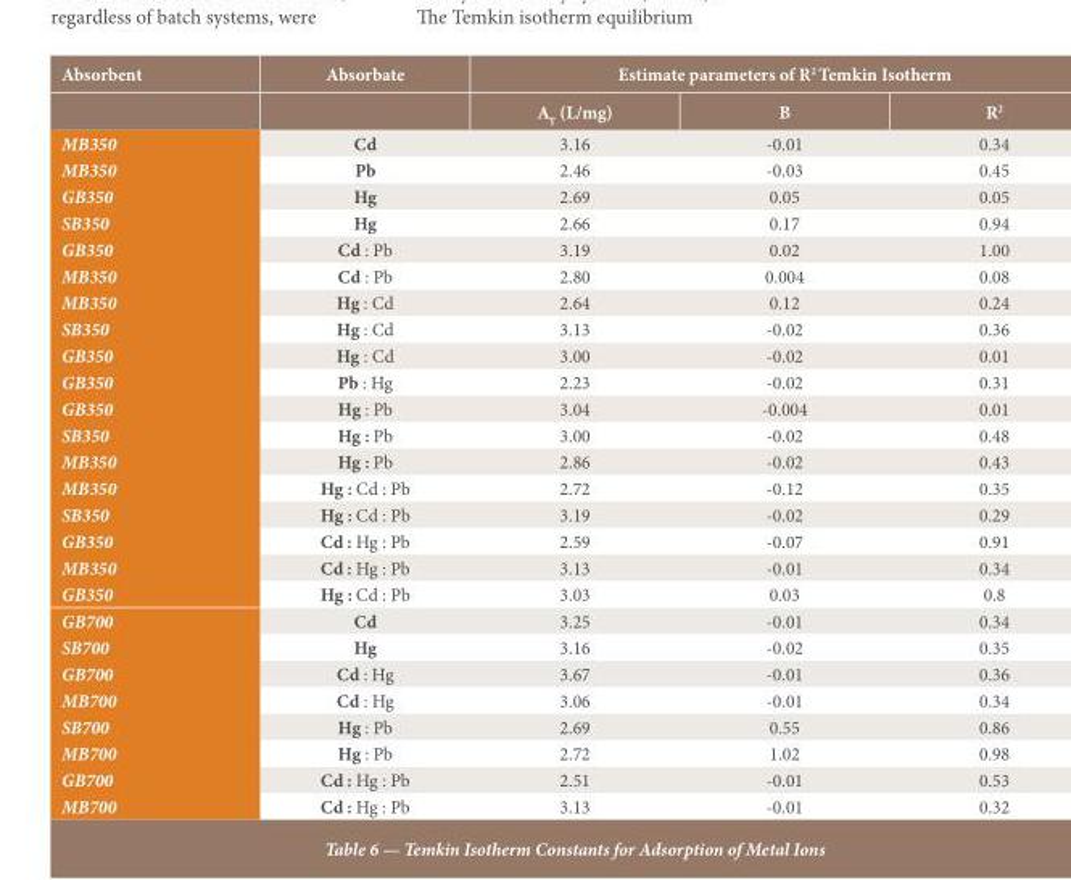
<table><thead><tr><td rowspan="2">Absorbent</td><td rowspan="2">Absorbate</td><td colspan="3">Estimate parameters of R<sup>2</sup> Temkin Isotherm</td></tr><tr><td>A<sub>T</sub> (L/mg)</td><td>B</td><td>R<sup>2</sup></td></tr></thead><tbody><tr><td>MB350</td><td>Cd</td><td>3.16</td><td>-0.01</td><td>0.34</td></tr><tr><td>MB350</td><td>Pb</td><td>2.46</td><td>-0.03</td><td>0.45</td></tr><tr><td>GB350</td><td>Hg</td><td>2.69</td><td>0.05</td><td>0.05</td></tr><tr><td>SB350</td><td>Hg</td><td>2.66</td><td>0.17</td><td>0.94</td></tr><tr><td>GB350</td><td>Cd : Pb</td><td>3.19</td><td>0.02</td><td>1.00</td></tr><tr><td>MB350</td><td>Cd : Pb</td><td>2.80</td><td>0.004</td><td>0.08</td></tr><tr><td>MB350</td><td>Hg : Cd</td><td>2.64</td><td>0.12</td><td>0.24</td></tr><tr><td>SB350</td><td>Hg : Cd</td><td>3.13</td><td>-0.02</td><td>0.36</td></tr><tr><td>GB350</td><td>Hg : Cd</td><td>3.00</td><td>-0.02</td><td>0.01</td></tr><tr><td>GB350</td><td>Pb : Hg</td><td>2.23</td><td>-0.02</td><td>0.31</td></tr><tr><td>GB350</td><td>Hg : Pb</td><td>3.04</td><td>-0.004</td><td>0.01</td></tr><tr><td>SB350</td><td>Hg : Pb</td><td>3.00</td><td>-0.02</td><td>0.48</td></tr><tr><td>MB350</td><td>Hg : Pb</td><td>2.86</td><td>-0.02</td><td>0.43</td></tr><tr><td>MB350</td><td>Hg : Cd : Pb</td><td>2.72</td><td>-0.12</td><td>0.35</td></tr><tr><td>SB350</td><td>Hg : Cd : Pb</td><td>3.19</td><td>-0.02</td><td>0.29</td></tr><tr><td>GB350</td><td>Cd : Hg : Pb</td><td>2.59</td><td>-0.07</td><td>0.91</td></tr><tr><td>MB350</td><td>Cd : Hg : Pb</td><td>3.13</td><td>-0.01</td><td>0.34</td></tr><tr><td>GB350</td><td>Hg : Cd : Pb</td><td>3.03</td><td>0.03</td><td>0.8</td></tr><tr><td>GB700</td><td>Cd</td><td>3.25</td><td>-0.01</td><td>0.34</td></tr><tr><td>SB700</td><td>Hg</td><td>3.16</td><td>-0.02</td><td>0.35</td></tr><tr><td>GB700</td><td>Cd : Hg</td><td>3.67</td><td>-0.01</td><td>0.36</td></tr><tr><td>MB700</td><td>Cd : Hg</td><td>3.06</td><td>-0.01</td><td>0.34</td></tr><tr><td>SB700</td><td>Hg : Pb</td><td>2.69</td><td>0.55</td><td>0.86</td></tr><tr><td>MB700</td><td>Hg : Pb</td><td>2.72</td><td>1.02</td><td>0.98</td></tr><tr><td>GB700</td><td>Cd : Hg : Pb</td><td>2.51</td><td>-0.01</td><td>0.53</td></tr><tr><td>MB700</td><td>Cd : Hg : Pb</td><td>3.13</td><td>-0.01</td><td>0.32</td></tr></tbody></table>